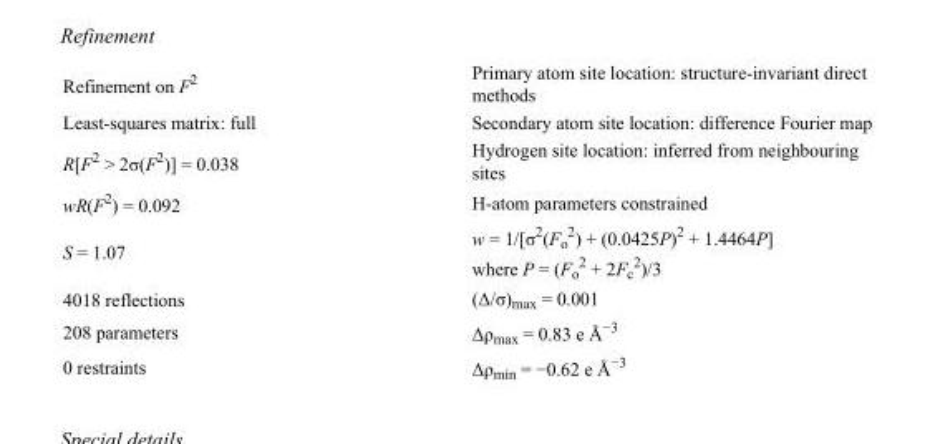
<table><tbody><tr><td>Refinement on F<sup>2</sup></td><td>Primary atom site location: structure-invariant direct methods</td></tr><tr><td>Least-squares matrix: full</td><td>Secondary atom site location: difference Fourier map</td></tr><tr><td>R[F<sup>2</sup> &gt; 2σ(F<sup>2</sup>)] = 0.038</td><td>Hydrogen site location: inferred from neighbouring sites</td></tr><tr><td>wR(F<sup>2</sup>) = 0.092</td><td>H-atom parameters constrained</td></tr><tr><td>S = 1.07</td><td>w = 1/[σ<sup>2</sup>(F<sub>o</sub> <sup>2</sup>) + (0.0425P)<sup>2</sup> + 1.4464P] where P = (F<sub>o</sub> <sup>2</sup> + 2F<sub>c</sub> <sup>2</sup>)/3</td></tr><tr><td>4018 reflections</td><td>(Δ/σ)<sub>max</sub> = 0.001</td></tr><tr><td>208 parameters</td><td>Δρ<sub>max</sub> = 0.83 e Å<sup>−3</sup></td></tr><tr><td>0 restraints</td><td>Δρ<sub>min</sub> = −0.62 e Å<sup>−3</sup></td></tr></tbody></table>